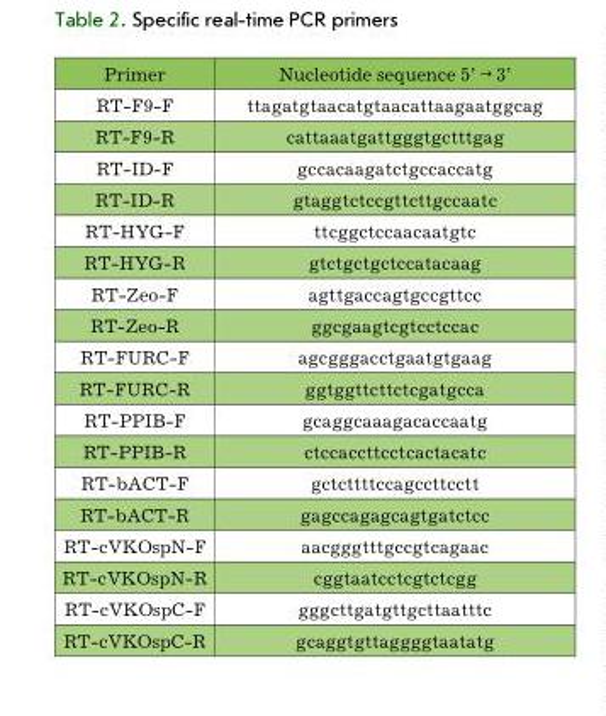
<table><thead><tr><td>Primer</td><td>Nucleotide sequence 5’ → 3’</td></tr></thead><tbody><tr><td>RT-F9-F</td><td>ttagatgtaacatgtaacattaagaatggcag</td></tr><tr><td>RT-F9-R</td><td>cattaaatgattgggtgctttgag</td></tr><tr><td>RT-ID-F</td><td>gccacaagatctgccaccatg</td></tr><tr><td>RT-ID-R</td><td>gtaggtctccgttcttgccaatc</td></tr><tr><td>RT-HYG-F</td><td>ttcggctccaacaatgtc</td></tr><tr><td>RT-HYG-R</td><td>gtctgctgctccatacaag</td></tr><tr><td>RT-Zeo-F</td><td>agttgaccagtgccgttcc</td></tr><tr><td>RT-Zeo-R</td><td>ggcgaagtcgtcctccac</td></tr><tr><td>RT-FURC-F</td><td>agcgggacctgaatgtgaag</td></tr><tr><td>RT-FURC-R</td><td>ggtggttcttctcgatgcca</td></tr><tr><td>RT-PPIB-F</td><td>gcaggcaaagacaccaatg</td></tr><tr><td>RT-PPIB-R</td><td>ctccaccttcctcactacatc</td></tr><tr><td>RT-bACT-F</td><td>gctcttttccagccttcctt</td></tr><tr><td>RT-bACT-R</td><td>gagccagagcagtgatctcc</td></tr><tr><td>RT-cVKOspN-F</td><td>aacgggtttgccgtcagaac</td></tr><tr><td>RT-cVKOspN-R</td><td>cggtaatcctcgtctcgg</td></tr><tr><td>RT-cVKOspC-F</td><td>gggcttgatgttgcttaatttc</td></tr><tr><td>RT-cVKOspC-R</td><td>gcaggtgttaggggtaatatg</td></tr></tbody></table>